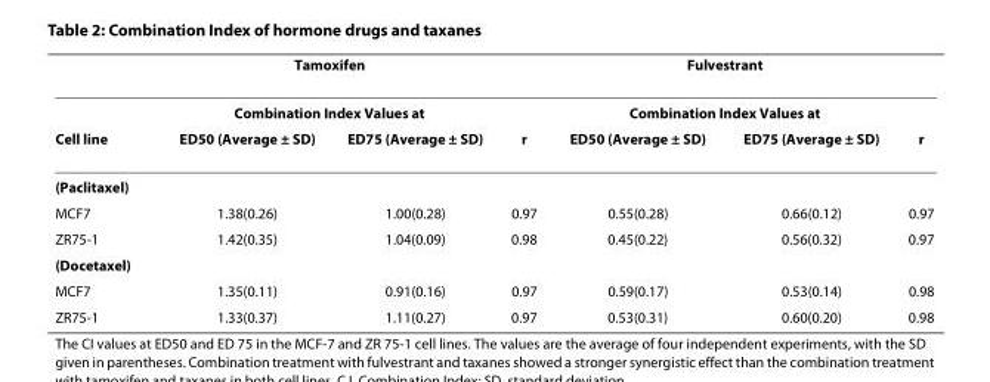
<table><thead><tr><td rowspan="3">Cell line</td><td rowspan="2" colspan="2">Tamoxifen Combination Index Values at</td><td rowspan="3">r</td><td rowspan="2" colspan="2">Fulvestrant Combination Index Values at</td><td rowspan="3">r</td></tr><tr></tr><tr><td>ED50 (Average ± SD)</td><td>ED75 (Average ± SD)</td><td>ED50 (Average ± SD)</td><td>ED75 (Average ± SD)</td></tr></thead><tbody><tr><td colspan="7">(Paclitaxel)</td></tr><tr><td>MCF7</td><td>1.38(0.26)</td><td>1.00(0.28)</td><td>0.97</td><td>0.55(0.28)</td><td>0.66(0.12)</td><td>0.97</td></tr><tr><td>ZR75-1</td><td>1.42(0.35)</td><td>1.04(0.09)</td><td>0.98</td><td>0.45(0.22)</td><td>0.56(0.32)</td><td>0.97</td></tr><tr><td colspan="7">(Docetaxel)</td></tr><tr><td>MCF7</td><td>1.35(0.11)</td><td>0.91(0.16)</td><td>0.97</td><td>0.59(0.17)</td><td>0.53(0.14)</td><td>0.98</td></tr><tr><td>ZR75-1</td><td>1.33(0.37)</td><td>1.11(0.27)</td><td>0.97</td><td>0.53(0.31)</td><td>0.60(0.20)</td><td>0.98</td></tr></tbody></table>